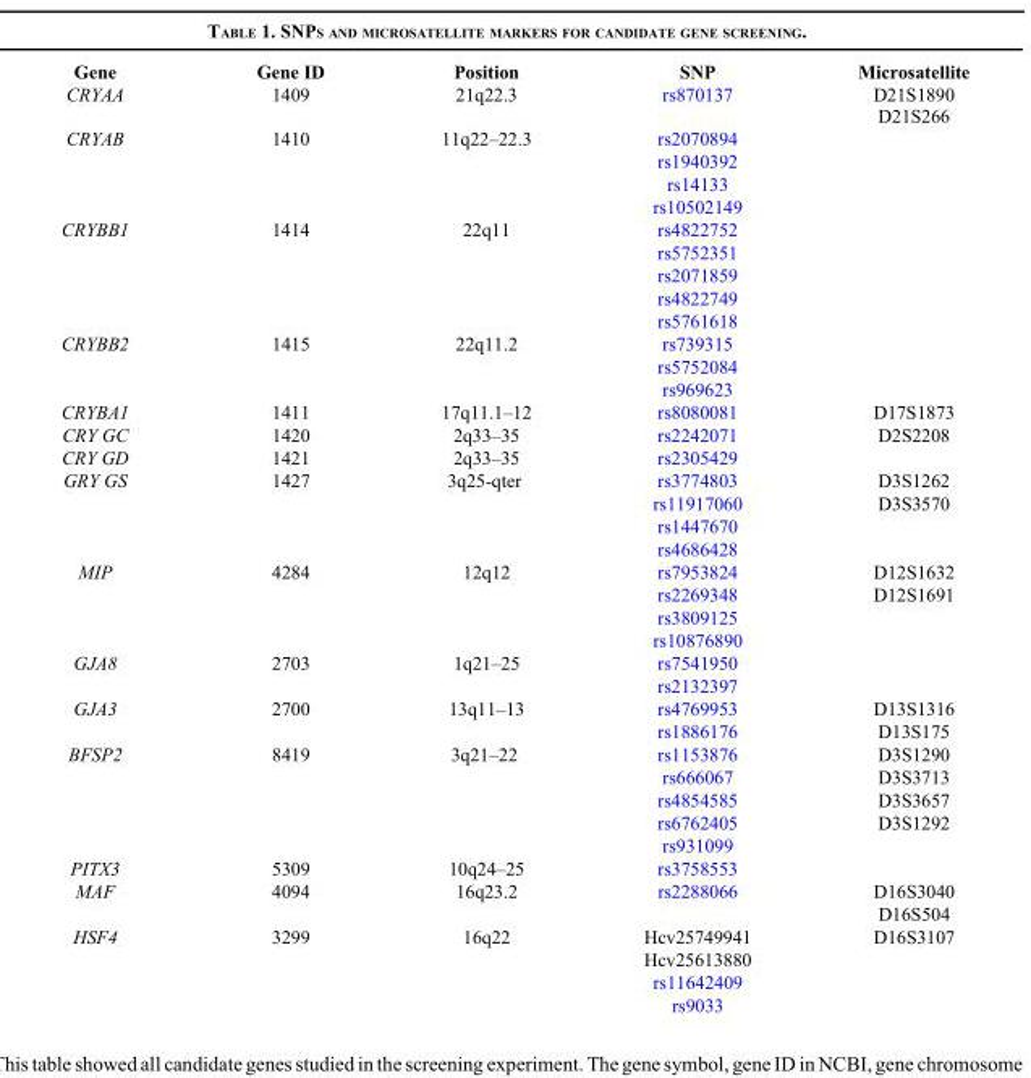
<table><thead><tr><td>Gene</td><td>Gene ID</td><td>Position</td><td>SNP</td><td>Microsatellite</td></tr></thead><tbody><tr><td rowspan="2">CRYAA</td><td rowspan="2">1409</td><td rowspan="2">21q22.3</td><td rowspan="2">rs870137</td><td>D21S1890</td></tr><tr><td>D21S266</td></tr><tr><td rowspan="4">CRYAB</td><td rowspan="4">1410</td><td rowspan="4">11q22–22.3</td><td>rs2070894</td><td></td></tr><tr><td>rs1940392</td><td></td></tr><tr><td>rs14133</td><td></td></tr><tr><td>rs10502149</td><td></td></tr><tr><td rowspan="5">CRYBB1</td><td rowspan="5">1414</td><td rowspan="5">22q11</td><td>rs4822752</td><td></td></tr><tr><td>rs5752351</td><td></td></tr><tr><td>rs2071859</td><td></td></tr><tr><td>rs4822749</td><td></td></tr><tr><td>rs5761618</td><td></td></tr><tr><td rowspan="3">CRYBB2</td><td rowspan="3">1415</td><td rowspan="3">22q11.2</td><td>rs739315</td><td></td></tr><tr><td>rs5752084</td><td></td></tr><tr><td>rs969623</td><td></td></tr><tr><td>CRYBA1</td><td>1411</td><td>17q11.1–12</td><td>rs8080081</td><td>D17S1873</td></tr><tr><td>CRY GC</td><td>1420</td><td>2q33–35</td><td>rs2242071</td><td>D2S2208</td></tr><tr><td>CRY GD</td><td>1421</td><td>2q33–35</td><td>rs2305429</td><td></td></tr><tr><td rowspan="4">GRY GS</td><td rowspan="4">1427</td><td rowspan="4">3q25-qter</td><td>rs3774803</td><td>D3S1262</td></tr><tr><td>rs11917060</td><td>D3S3570</td></tr><tr><td>rs1447670</td><td></td></tr><tr><td>rs4686428</td><td></td></tr><tr><td rowspan="4">MIP</td><td rowspan="4">4284</td><td rowspan="4">12q12</td><td>rs7953824</td><td>D12S1632</td></tr><tr><td>rs2269348</td><td>D12S1691</td></tr><tr><td>rs3809125</td><td></td></tr><tr><td>rs10876890</td><td></td></tr><tr><td rowspan="2">GJA8</td><td rowspan="2">2703</td><td rowspan="2">1q21–25</td><td>rs7541950</td><td></td></tr><tr><td>rs2132397</td><td></td></tr><tr><td rowspan="2">GJA3</td><td rowspan="2">2700</td><td rowspan="2">13q11–13</td><td>rs4769953</td><td>D13S1316</td></tr><tr><td>rs1886176</td><td>D13S175</td></tr><tr><td rowspan="5">BFSP2</td><td rowspan="5">8419</td><td rowspan="5">3q21–22</td><td>rs1153876</td><td>D3S1290</td></tr><tr><td>rs666067</td><td>D3S3713</td></tr><tr><td>rs4854585</td><td>D3S3657</td></tr><tr><td>rs6762405</td><td>D3S1292</td></tr><tr><td>rs931099</td><td></td></tr><tr><td>PITX3</td><td>5309</td><td>10q24–25</td><td>rs3758553</td><td></td></tr><tr><td rowspan="2">MAF</td><td rowspan="2">4094</td><td rowspan="2">16q23.2</td><td>rs2288066</td><td>D16S3040</td></tr><tr><td></td><td>D16S504</td></tr><tr><td rowspan="4">HSF4</td><td rowspan="4">3299</td><td rowspan="4">16q22</td><td>Hcv25749941</td><td rowspan="4">D16S3107</td></tr><tr><td>Hcv25613880</td></tr><tr><td>rs11642409</td></tr><tr><td>rs9033</td></tr></tbody></table>